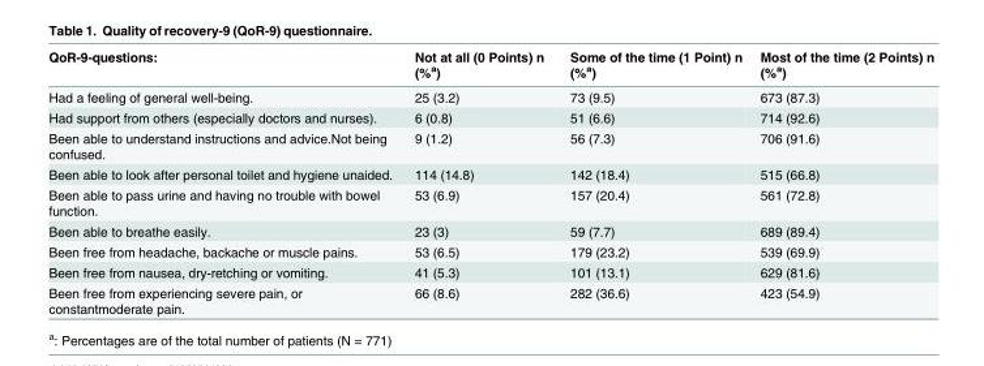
<table><thead><tr><td>QoR-9-questions:</td><td>Not at all (0 Points) n (%<sup>a</sup>)</td><td>Some of the time (1 Point) n (%<sup>a</sup>)</td><td>Most of the time (2 Points) n (%<sup>a</sup>)</td></tr></thead><tbody><tr><td>Had a feeling of general well-being.</td><td>25 (3.2)</td><td>73 (9.5)</td><td>673 (87.3)</td></tr><tr><td>Had support from others (especially doctors and nurses).</td><td>6 (0.8)</td><td>51 (6.6)</td><td>714 (92.6)</td></tr><tr><td>Been able to understand instructions and advice.Not being confused.</td><td>9 (1.2)</td><td>56 (7.3)</td><td>706 (91.6)</td></tr><tr><td>Been able to look after personal toilet and hygiene unaided.</td><td>114 (14.8)</td><td>142 (18.4)</td><td>515 (66.8)</td></tr><tr><td>Been able to pass urine and having no trouble with bowel function.</td><td>53 (6.9)</td><td>157 (20.4)</td><td>561 (72.8)</td></tr><tr><td>Been able to breathe easily.</td><td>23 (3)</td><td>59 (7.7)</td><td>689 (89.4)</td></tr><tr><td>Been free from headache, backache or muscle pains.</td><td>53 (6.5)</td><td>179 (23.2)</td><td>539 (69.9)</td></tr><tr><td>Been free from nausea, dry-retching or vomiting.</td><td>41 (5.3)</td><td>101 (13.1)</td><td>629 (81.6)</td></tr><tr><td>Been free from experiencing severe pain, or constantmoderate pain.</td><td>66 (8.6)</td><td>282 (36.6)</td><td>423 (54.9)</td></tr></tbody></table>